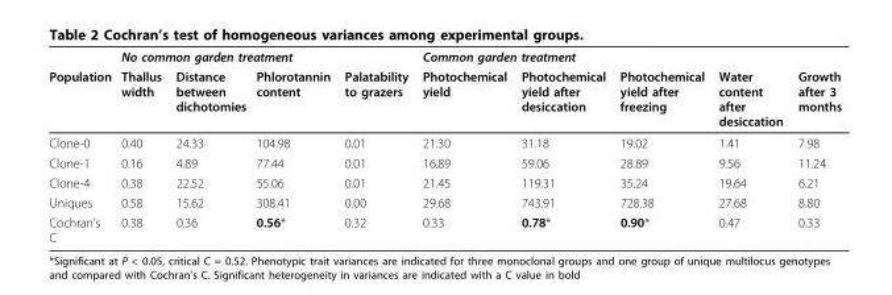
<table><thead><tr><td rowspan="2">Population</td><td colspan="4">No common garden treatment</td><td colspan="5">Common garden treatment</td></tr><tr><td>Thallus width</td><td>Distance between dichotomies</td><td>Phlorotannin content</td><td>Palatability to grazers</td><td>Photochemical yield</td><td>Photochemical yield after desiccation</td><td>Photochemical yield after freezing</td><td>Water content after desiccation</td><td>Growth after 3 months</td></tr></thead><tbody><tr><td>Clone-0</td><td>0.40</td><td>24.33</td><td>104.98</td><td>0.01</td><td>21.30</td><td>31.18</td><td>19.02</td><td>1.41</td><td>7.98</td></tr><tr><td>Clone-1</td><td>0.16</td><td>4.89</td><td>77.44</td><td>0.01</td><td>16.89</td><td>59.06</td><td>28.89</td><td>9.56</td><td>11.24</td></tr><tr><td>Clone-4</td><td>0.38</td><td>22.52</td><td>55.06</td><td>0.01</td><td>21.45</td><td>119.31</td><td>35.24</td><td>19.64</td><td>6.21</td></tr><tr><td>Uniques</td><td>0.58</td><td>15.62</td><td>308.41</td><td>0.00</td><td>29.68</td><td>743.91</td><td>728.38</td><td>27.68</td><td>8.80</td></tr><tr><td>Cochran’s C</td><td>0.38</td><td>0.36</td><td>0.56*</td><td>0.32</td><td>0.33</td><td>0.78*</td><td>0.90*</td><td>0.47</td><td>0.33</td></tr></tbody></table>